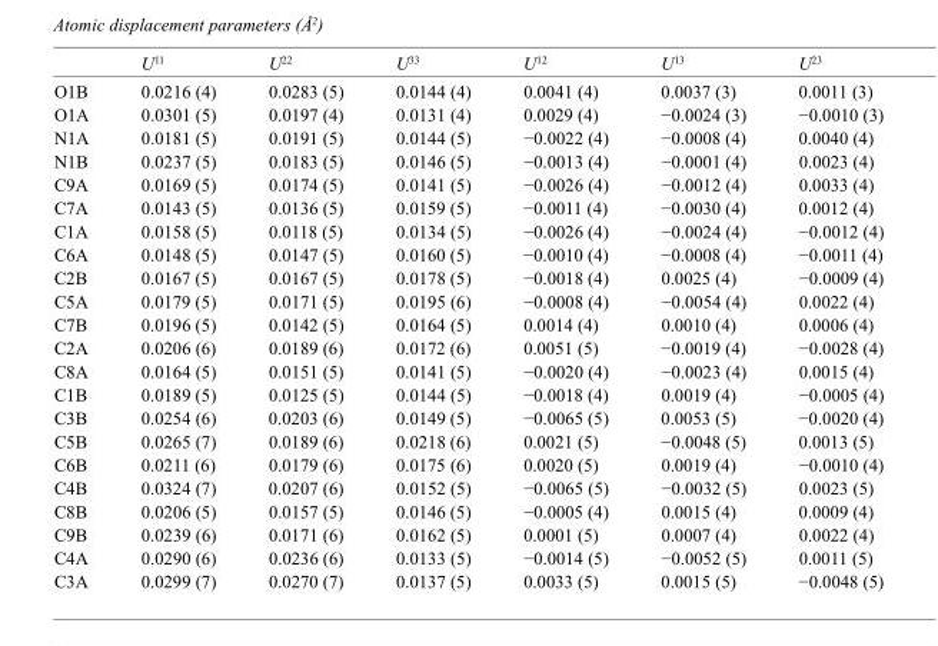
<table><thead><tr><td></td><td>U<sup>11</sup></td><td>U<sup>22</sup></td><td>U<sup>33</sup></td><td>U<sup>12</sup></td><td>U<sup>13</sup></td><td>U<sup>23</sup></td></tr></thead><tbody><tr><td>O1B</td><td>0.0216 (4)</td><td>0.0283 (5)</td><td>0.0144 (4)</td><td>0.0041 (4)</td><td>0.0037 (3)</td><td>0.0011 (3)</td></tr><tr><td>O1A</td><td>0.0301 (5)</td><td>0.0197 (4)</td><td>0.0131 (4)</td><td>0.0029 (4)</td><td>−0.0024 (3)</td><td>−0.0010 (3)</td></tr><tr><td>N1A</td><td>0.0181 (5)</td><td>0.0191 (5)</td><td>0.0144 (5)</td><td>−0.0022 (4)</td><td>−0.0008 (4)</td><td>0.0040 (4)</td></tr><tr><td>N1B</td><td>0.0237 (5)</td><td>0.0183 (5)</td><td>0.0146 (5)</td><td>−0.0013 (4)</td><td>−0.0001 (4)</td><td>0.0023 (4)</td></tr><tr><td>C9A</td><td>0.0169 (5)</td><td>0.0174 (5)</td><td>0.0141 (5)</td><td>−0.0026 (4)</td><td>−0.0012 (4)</td><td>0.0033 (4)</td></tr><tr><td>C7A</td><td>0.0143 (5)</td><td>0.0136 (5)</td><td>0.0159 (5)</td><td>−0.0011 (4)</td><td>−0.0030 (4)</td><td>0.0012 (4)</td></tr><tr><td>C1A</td><td>0.0158 (5)</td><td>0.0118 (5)</td><td>0.0134 (5)</td><td>−0.0026 (4)</td><td>−0.0024 (4)</td><td>−0.0012 (4)</td></tr><tr><td>C6A</td><td>0.0148 (5)</td><td>0.0147 (5)</td><td>0.0160 (5)</td><td>−0.0010 (4)</td><td>−0.0008 (4)</td><td>−0.0011 (4)</td></tr><tr><td>C2B</td><td>0.0167 (5)</td><td>0.0167 (5)</td><td>0.0178 (5)</td><td>−0.0018 (4)</td><td>0.0025 (4)</td><td>−0.0009 (4)</td></tr><tr><td>C5A</td><td>0.0179 (5)</td><td>0.0171 (5)</td><td>0.0195 (6)</td><td>−0.0008 (4)</td><td>−0.0054 (4)</td><td>0.0022 (4)</td></tr><tr><td>C7B</td><td>0.0196 (5)</td><td>0.0142 (5)</td><td>0.0164 (5)</td><td>0.0014 (4)</td><td>0.0010 (4)</td><td>0.0006 (4)</td></tr><tr><td>C2A</td><td>0.0206 (6)</td><td>0.0189 (6)</td><td>0.0172 (6)</td><td>0.0051 (5)</td><td>−0.0019 (4)</td><td>−0.0028 (4)</td></tr><tr><td>C8A</td><td>0.0164 (5)</td><td>0.0151 (5)</td><td>0.0141 (5)</td><td>−0.0020 (4)</td><td>−0.0023 (4)</td><td>0.0015 (4)</td></tr><tr><td>C1B</td><td>0.0189 (5)</td><td>0.0125 (5)</td><td>0.0144 (5)</td><td>−0.0018 (4)</td><td>0.0019 (4)</td><td>−0.0005 (4)</td></tr><tr><td>C3B</td><td>0.0254 (6)</td><td>0.0203 (6)</td><td>0.0149 (5)</td><td>−0.0065 (5)</td><td>0.0053 (5)</td><td>−0.0020 (4)</td></tr><tr><td>C5B</td><td>0.0265 (7)</td><td>0.0189 (6)</td><td>0.0218 (6)</td><td>0.0021 (5)</td><td>−0.0048 (5)</td><td>0.0013 (5)</td></tr><tr><td>C6B</td><td>0.0211 (6)</td><td>0.0179 (6)</td><td>0.0175 (6)</td><td>0.0020 (5)</td><td>0.0019 (4)</td><td>−0.0010 (4)</td></tr><tr><td>C4B</td><td>0.0324 (7)</td><td>0.0207 (6)</td><td>0.0152 (5)</td><td>−0.0065 (5)</td><td>−0.0032 (5)</td><td>0.0023 (5)</td></tr><tr><td>C8B</td><td>0.0206 (5)</td><td>0.0157 (5)</td><td>0.0146 (5)</td><td>−0.0005 (4)</td><td>0.0015 (4)</td><td>0.0009 (4)</td></tr><tr><td>C9B</td><td>0.0239 (6)</td><td>0.0171 (6)</td><td>0.0162 (5)</td><td>0.0001 (5)</td><td>0.0007 (4)</td><td>0.0022 (4)</td></tr><tr><td>C4A</td><td>0.0290 (6)</td><td>0.0236 (6)</td><td>0.0133 (5)</td><td>−0.0014 (5)</td><td>−0.0052 (5)</td><td>0.0011 (5)</td></tr><tr><td>C3A</td><td>0.0299 (7)</td><td>0.0270 (7)</td><td>0.0137 (5)</td><td>0.0033 (5)</td><td>0.0015 (5)</td><td>−0.0048 (5)</td></tr></tbody></table>